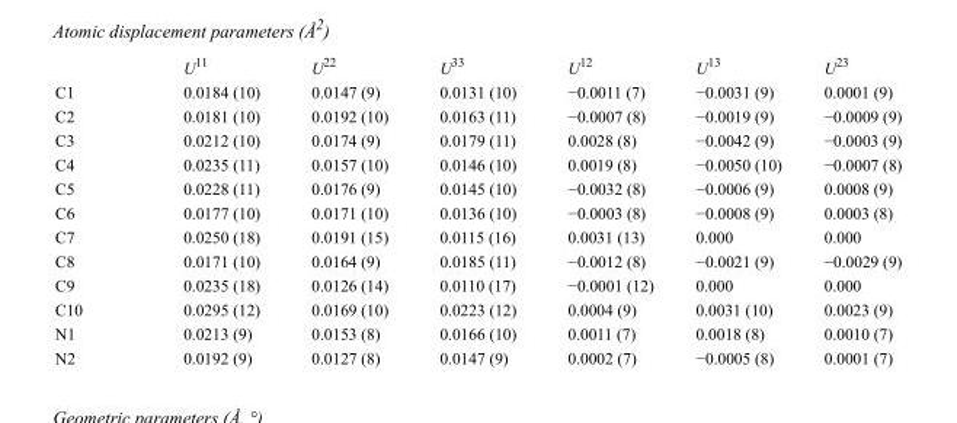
<table><thead><tr><td></td><td>U<sup>11</sup></td><td>U<sup>22</sup></td><td>U<sup>33</sup></td><td>U<sup>12</sup></td><td>U<sup>13</sup></td><td>U<sup>23</sup></td></tr></thead><tbody><tr><td>C1</td><td>0.0184 (10)</td><td>0.0147 (9)</td><td>0.0131 (10)</td><td>−0.0011 (7)</td><td>−0.0031 (9)</td><td>0.0001 (9)</td></tr><tr><td>C2</td><td>0.0181 (10)</td><td>0.0192 (10)</td><td>0.0163 (11)</td><td>−0.0007 (8)</td><td>−0.0019 (9)</td><td>−0.0009 (9)</td></tr><tr><td>C3</td><td>0.0212 (10)</td><td>0.0174 (9)</td><td>0.0179 (11)</td><td>0.0028 (8)</td><td>−0.0042 (9)</td><td>−0.0003 (9)</td></tr><tr><td>C4</td><td>0.0235 (11)</td><td>0.0157 (10)</td><td>0.0146 (10)</td><td>0.0019 (8)</td><td>−0.0050 (10)</td><td>−0.0007 (8)</td></tr><tr><td>C5</td><td>0.0228 (11)</td><td>0.0176 (9)</td><td>0.0145 (10)</td><td>−0.0032 (8)</td><td>−0.0006 (9)</td><td>0.0008 (9)</td></tr><tr><td>C6</td><td>0.0177 (10)</td><td>0.0171 (10)</td><td>0.0136 (10)</td><td>−0.0003 (8)</td><td>−0.0008 (9)</td><td>0.0003 (8)</td></tr><tr><td>C7</td><td>0.0250 (18)</td><td>0.0191 (15)</td><td>0.0115 (16)</td><td>0.0031 (13)</td><td>0.000</td><td>0.000</td></tr><tr><td>C8</td><td>0.0171 (10)</td><td>0.0164 (9)</td><td>0.0185 (11)</td><td>−0.0012 (8)</td><td>−0.0021 (9)</td><td>−0.0029 (9)</td></tr><tr><td>C9</td><td>0.0235 (18)</td><td>0.0126 (14)</td><td>0.0110 (17)</td><td>−0.0001 (12)</td><td>0.000</td><td>0.000</td></tr><tr><td>C10</td><td>0.0295 (12)</td><td>0.0169 (10)</td><td>0.0223 (12)</td><td>0.0004 (9)</td><td>0.0031 (10)</td><td>0.0023 (9)</td></tr><tr><td>N1</td><td>0.0213 (9)</td><td>0.0153 (8)</td><td>0.0166 (10)</td><td>0.0011 (7)</td><td>0.0018 (8)</td><td>0.0010 (7)</td></tr><tr><td>N2</td><td>0.0192 (9)</td><td>0.0127 (8)</td><td>0.0147 (9)</td><td>0.0002 (7)</td><td>−0.0005 (8)</td><td>0.0001 (7)</td></tr></tbody></table>